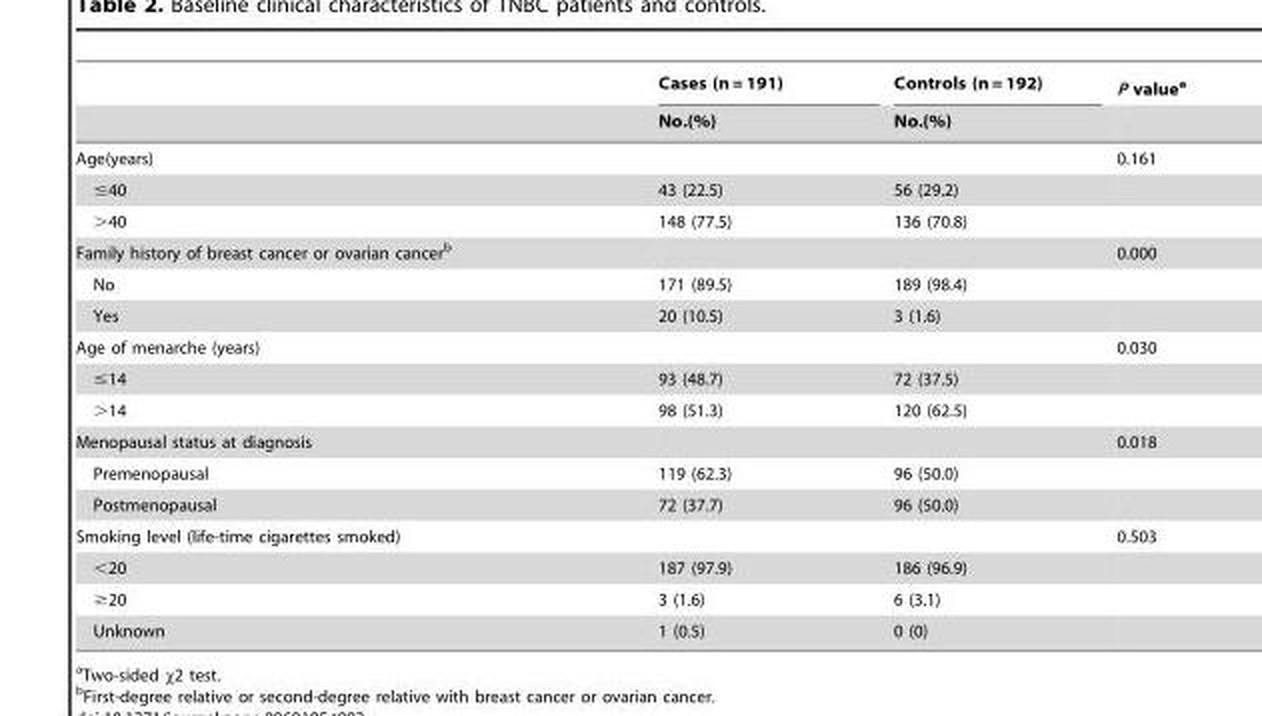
<table><thead><tr><td rowspan="2"></td><td rowspan="2">Cases (n = 191) No.(%)</td><td rowspan="2">Controls (n = 192) No.(%)</td><td rowspan="2">P value<sup>a</sup></td></tr><tr></tr></thead><tbody><tr><td>Age(years)</td><td></td><td></td><td>0.161</td></tr><tr><td>≤40</td><td>43 (22.5)</td><td>56 (29.2)</td><td></td></tr><tr><td>&gt;40</td><td>148 (77.5)</td><td>136 (70.8)</td><td></td></tr><tr><td>Family history of breast cancer or ovarian cancer<sup>b</sup></td><td></td><td></td><td>0.000</td></tr><tr><td>No</td><td>171 (89.5)</td><td>189 (98.4)</td><td></td></tr><tr><td>Yes</td><td>20 (10.5)</td><td>3 (1.6)</td><td></td></tr><tr><td>Age of menarche (years)</td><td></td><td></td><td>0.030</td></tr><tr><td>≤14</td><td>93 (48.7)</td><td>72 (37.5)</td><td></td></tr><tr><td>&gt;14</td><td>98 (51.3)</td><td>120 (62.5)</td><td></td></tr><tr><td>Menopausal status at diagnosis</td><td></td><td></td><td>0.018</td></tr><tr><td>Premenopausal</td><td>119 (62.3)</td><td>96 (50.0)</td><td></td></tr><tr><td>Postmenopausal</td><td>72 (37.7)</td><td>96 (50.0)</td><td></td></tr><tr><td>Smoking level (life-time cigarettes smoked)</td><td></td><td></td><td>0.503</td></tr><tr><td>&lt;20</td><td>187 (97.9)</td><td>186 (96.9)</td><td></td></tr><tr><td>≥20</td><td>3 (1.6)</td><td>6 (3.1)</td><td></td></tr><tr><td>Unknown</td><td>1 (0.5)</td><td>0 (0)</td><td></td></tr></tbody></table>